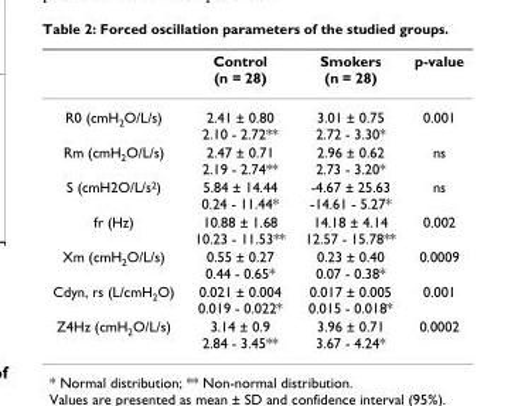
<table><thead><tr><td></td><td>Control (n = 28)</td><td>Smokers (n = 28)</td><td>p-value</td></tr></thead><tbody><tr><td>R0 (cmH<sub>2</sub>O/L/s)</td><td>2.41 ± 0.80 2.10 - 2.72**</td><td>3.01 ± 0.75 2.72 - 3.30*</td><td>0.001</td></tr><tr><td>Rm (cmH<sub>2</sub>O/L/s)</td><td>2.47 ± 0.71 2.19 - 2.74**</td><td>2.96 ± 0.62 2.73 - 3.20*</td><td>ns</td></tr><tr><td>S (cmH2O/L/s<sup>2</sup>)</td><td>5.84 ± 14.44 0.24 - 11.44*</td><td>-4.67 ± 25.63 -14.61 - 5.27*</td><td>ns</td></tr><tr><td>fr (Hz)</td><td>10.88 ± 1.68 10.23 - 11.53**</td><td>14.18 ± 4.14 12.57 - 15.78**</td><td>0.002</td></tr><tr><td>Xm (cmH<sub>2</sub>O/L/s)</td><td>0.55 ± 0.27 0.44 - 0.65*</td><td>0.23 ± 0.40 0.07 - 0.38*</td><td>0.0009</td></tr><tr><td>Cdyn, rs (L/cmH<sub>2</sub>O)</td><td>0.021 ± 0.004 0.019 - 0.022*</td><td>0.017 ± 0.005 0.015 - 0.018*</td><td>0.001</td></tr><tr><td>Z4Hz (cmH<sub>2</sub>O/L/s)</td><td>3.14 ± 0.9 2.84 - 3.45**</td><td>3.96 ± 0.71 3.67 - 4.24*</td><td>0.0002</td></tr></tbody></table>